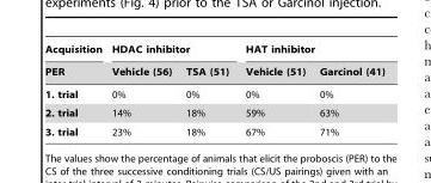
<table><thead><tr><td rowspan="2">Acquisition PER</td><td colspan="2">HDAC inhibitor</td><td colspan="2">HAT inhibitor</td></tr><tr><td>Vehicle (56)</td><td>TSA (51)</td><td>Vehicle (51)</td><td>Garcinol (41)</td></tr></thead><tbody><tr><td>1. trial</td><td>0%</td><td>0%</td><td>0%</td><td>0%</td></tr><tr><td>2. trial</td><td>14%</td><td>18%</td><td>59%</td><td>63%</td></tr><tr><td>3. trial</td><td>23%</td><td>18%</td><td>67%</td><td>71%</td></tr></tbody></table>